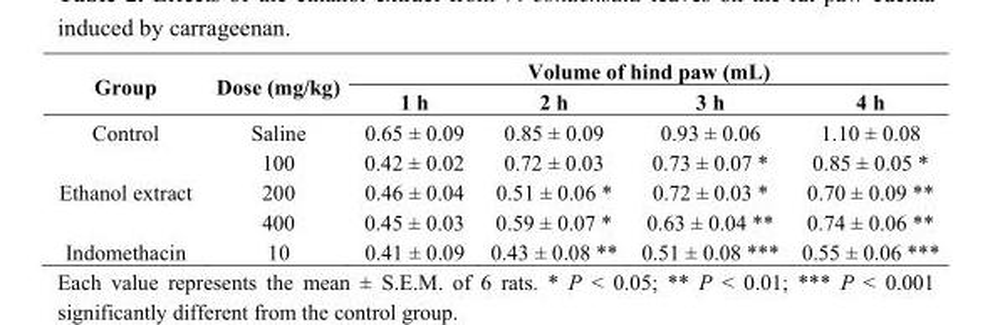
<table><thead><tr><td rowspan="2">Group</td><td rowspan="2">Dose (mg/kg)</td><td colspan="4">Volume of hind paw (mL)</td></tr><tr><td>1 h</td><td>2 h</td><td>3 h</td><td>4 h</td></tr></thead><tbody><tr><td rowspan="2">Control</td><td>Saline</td><td>0.65 ± 0.09</td><td>0.85 ± 0.09</td><td>0.93 ± 0.06</td><td>1.10 ± 0.08</td></tr><tr><td>100</td><td>0.42 ± 0.02</td><td>0.72 ± 0.03</td><td>0.73 ± 0.07 *</td><td>0.85 ± 0.05 *</td></tr><tr><td rowspan="2">Ethanol extract</td><td>200</td><td>0.46 ± 0.04</td><td>0.51 ± 0.06 *</td><td>0.72 ± 0.03 *</td><td>0.70 ± 0.09 **</td></tr><tr><td>400</td><td>0.45 ± 0.03</td><td>0.59 ± 0.07 *</td><td>0.63 ± 0.04 **</td><td>0.74 ± 0.06 **</td></tr><tr><td>Indomethacin</td><td>10</td><td>0.41 ± 0.09</td><td>0.43 ± 0.08 **</td><td>0.51 ± 0.08 ***</td><td>0.55 ± 0.06 ***</td></tr></tbody></table>